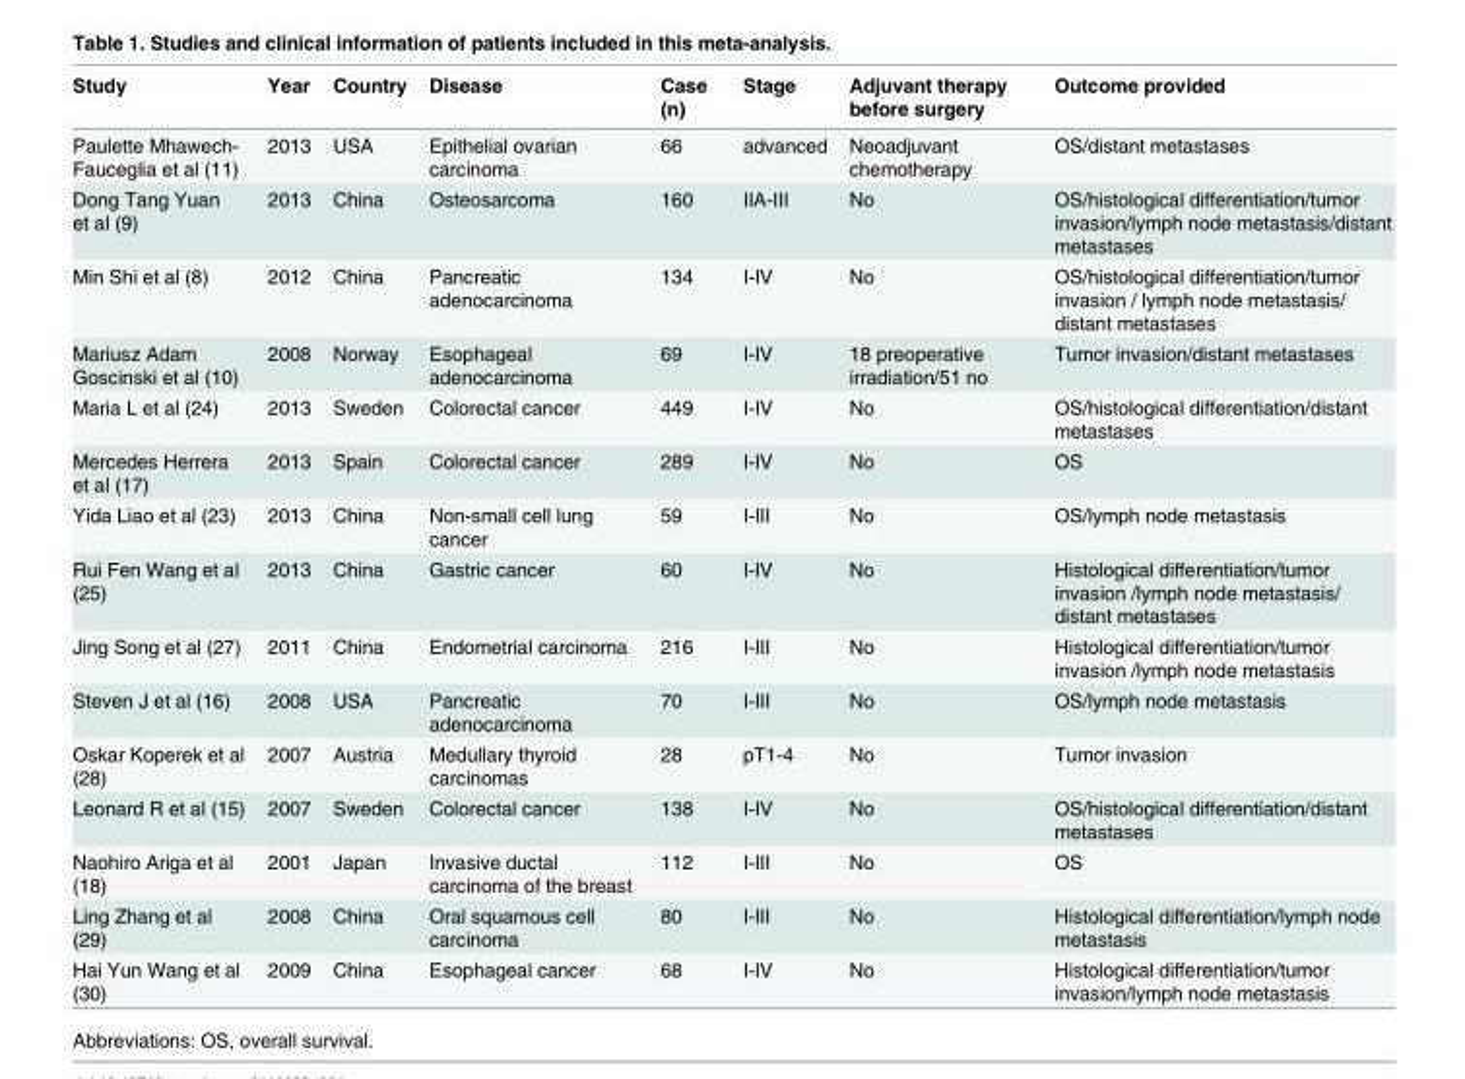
<table><thead><tr><td>Study</td><td>Year</td><td>Country</td><td>Disease</td><td>Case (n)</td><td>Stage</td><td>Adjuvant therapy before surgery</td><td>Outcome provided</td></tr></thead><tbody><tr><td>Paulette Mhawech- Fauceglia et al (11)</td><td>2013</td><td>USA</td><td>Epithelial ovarian carcinoma</td><td>66</td><td>advanced</td><td>Neoadjuvant chemotherapy</td><td>OS/distant metastases</td></tr><tr><td>Dong Tang Yuan et al (9)</td><td>2013</td><td>China</td><td>Osteosarcoma</td><td>160</td><td>IIA-III</td><td>No</td><td>OS/histological differentiation/tumor invasion/lymph node metastasis/distant metastases</td></tr><tr><td>Min Shi et al (8)</td><td>2012</td><td>China</td><td>Pancreatic adenocarcinoma</td><td>134</td><td>I-IV</td><td>No</td><td>OS/histological differentiation/tumor invasion / lymph node metastasis/ distant metastases</td></tr><tr><td>Mariusz Adam Goscinski et al (10)</td><td>2008</td><td>Norway</td><td>Esophageal adenocarcinoma</td><td>69</td><td>I-IV</td><td>18 preoperative irradiation/51 no</td><td>Tumor invasion/distant metastases</td></tr><tr><td>Maria L et al (24)</td><td>2013</td><td>Sweden</td><td>Colorectal cancer</td><td>449</td><td>I-IV</td><td>No</td><td>OS/histological differentiation/distant metastases</td></tr><tr><td>Mercedes Herrera et al (17)</td><td>2013</td><td>Spain</td><td>Colorectal cancer</td><td>289</td><td>I-IV</td><td>No</td><td>OS</td></tr><tr><td>Yida Liao et al (23)</td><td>2013</td><td>China</td><td>Non-small cell lung cancer</td><td>59</td><td>I-III</td><td>No</td><td>OS/lymph node metastasis</td></tr><tr><td>Rui Fen Wang et al (25)</td><td>2013</td><td>China</td><td>Gastric cancer</td><td>60</td><td>I-IV</td><td>No</td><td>Histological differentiation/tumor invasion /lymph node metastasis/ distant metastases</td></tr><tr><td>Jing Song et al (27)</td><td>2011</td><td>China</td><td>Endometrial carcinoma</td><td>216</td><td>I-III</td><td>No</td><td>Histological differentiation/tumor invasion /lymph node metastasis</td></tr><tr><td>Steven J et al (16)</td><td>2008</td><td>USA</td><td>Pancreatic adenocarcinoma</td><td>70</td><td>I-III</td><td>No</td><td>OS/lymph node metastasis</td></tr><tr><td>Oskar Koperek et al (28)</td><td>2007</td><td>Austria</td><td>Medullary thyroid carcinomas</td><td>28</td><td>pT1-4</td><td>No</td><td>Tumor invasion</td></tr><tr><td>Leonard R et al (15)</td><td>2007</td><td>Sweden</td><td>Colorectal cancer</td><td>138</td><td>I-IV</td><td>No</td><td>OS/histological differentiation/distant metastases</td></tr><tr><td>Naohiro Ariga et al (18)</td><td>2001</td><td>Japan</td><td>Invasive ductal carcinoma of the breast</td><td>112</td><td>I-III</td><td>No</td><td>OS</td></tr><tr><td>Ling Zhang et al (29)</td><td>2008</td><td>China</td><td>Oral squamous cell carcinoma</td><td>80</td><td>I-III</td><td>No</td><td>Histological differentiation/lymph node metastasis</td></tr><tr><td>Hai Yun Wang et al (30)</td><td>2009</td><td>China</td><td>Esophageal cancer</td><td>68</td><td>I-IV</td><td>No</td><td>Histological differentiation/tumor invasion/lymph node metastasis</td></tr></tbody></table>